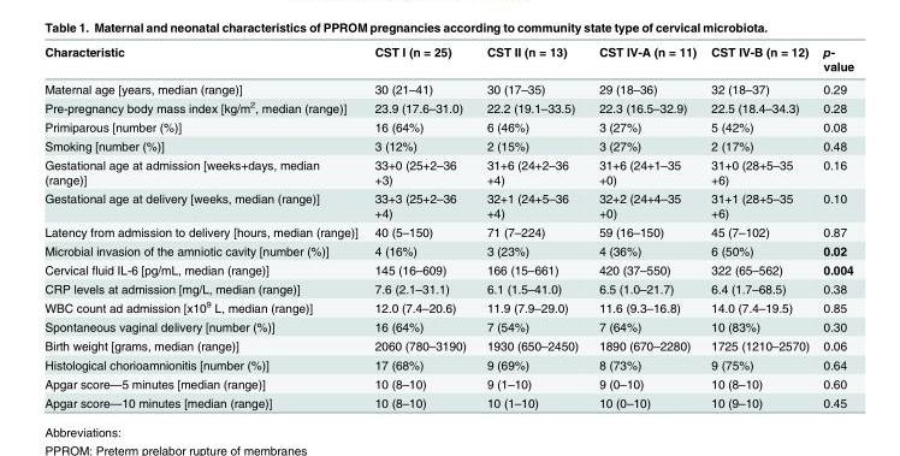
<table><thead><tr><td>Characteristic</td><td>CST I (n = 25)</td><td>CST II (n = 13)</td><td>CST IV-A (n = 11)</td><td>CST IV-B (n = 12)</td><td>p- value</td></tr></thead><tbody><tr><td>Maternal age [years, median (range)]</td><td>30 (21–41)</td><td>30 (17–35)</td><td>29 (18–36)</td><td>32 (18–37)</td><td>0.29</td></tr><tr><td>Pre-pregnancy body mass index [kg/m<sup>2</sup>, median (range)]</td><td>23.9 (17.6–31.0)</td><td>22.2 (19.1–33.5)</td><td>22.3 (16.5–32.9)</td><td>22.5 (18.4–34.3)</td><td>0.28</td></tr><tr><td>Primiparous [number (%)]</td><td>16 (64%)</td><td>6 (46%)</td><td>3 (27%)</td><td>5 (42%)</td><td>0.08</td></tr><tr><td>Smoking [number (%)]</td><td>3 (12%)</td><td>2 (15%)</td><td>3 (27%)</td><td>2 (17%)</td><td>0.48</td></tr><tr><td>Gestational age at admission [weeks+days, median (range)]</td><td>33+0 (25+2–36 +3)</td><td>31+6 (24+2–36 +4)</td><td>31+6 (24+1–35 +0)</td><td>31+0 (28+5–35 +6)</td><td>0.16</td></tr><tr><td>Gestational age at delivery [weeks, median (range)]</td><td>33+3 (25+2–36 +4)</td><td>32+1 (24+5–36 +4)</td><td>32+2 (24+4–35 +0)</td><td>31+1 (28+5–35 +6)</td><td>0.10</td></tr><tr><td>Latency from admission to delivery [hours, median (range)]</td><td>40 (5–150)</td><td>71 (7–224)</td><td>59 (16–150)</td><td>45 (7–102)</td><td>0.87</td></tr><tr><td>Microbial invasion of the amniotic cavity [number (%)]</td><td>4 (16%)</td><td>3 (23%)</td><td>4 (36%)</td><td>6 (50%)</td><td>0.02</td></tr><tr><td>Cervical fluid IL-6 [pg/mL, median (range)]</td><td>145 (16–609)</td><td>166 (15–661)</td><td>420 (37–550)</td><td>322 (65–562)</td><td>0.004</td></tr><tr><td>CRP levels at admission [mg/L, median (range)]</td><td>7.6 (2.1–31.1)</td><td>6.1 (1.5–41.0)</td><td>6.5 (1.0–21.7)</td><td>6.4 (1.7–68.5)</td><td>0.38</td></tr><tr><td>WBC count ad admission [x10<sup>9</sup> L, median (range)]</td><td>12.0 (7.4–20.6)</td><td>11.9 (7.9–29.0)</td><td>11.6 (9.3–16.8)</td><td>14.0 (7.4–19.5)</td><td>0.85</td></tr><tr><td>Spontaneous vaginal delivery [number (%)]</td><td>16 (64%)</td><td>7 (54%)</td><td>7 (64%)</td><td>10 (83%)</td><td>0.30</td></tr><tr><td>Birth weight [grams, median (range)]</td><td>2060 (780–3190)</td><td>1930 (650–2450)</td><td>1890 (670–2280)</td><td>1725 (1210–2570)</td><td>0.06</td></tr><tr><td>Histological chorioamnionitis [number (%)]</td><td>17 (68%)</td><td>9 (69%)</td><td>8 (73%)</td><td>9 (75%)</td><td>0.64</td></tr><tr><td>Apgar score—5 minutes [median (range)]</td><td>10 (8–10)</td><td>9 (1–10)</td><td>9 (0–10)</td><td>10 (8–10)</td><td>0.60</td></tr><tr><td>Apgar score—10 minutes [median (range)]</td><td>10 (8–10)</td><td>10 (1–10)</td><td>10 (0–10)</td><td>10 (9–10)</td><td>0.45</td></tr></tbody></table>